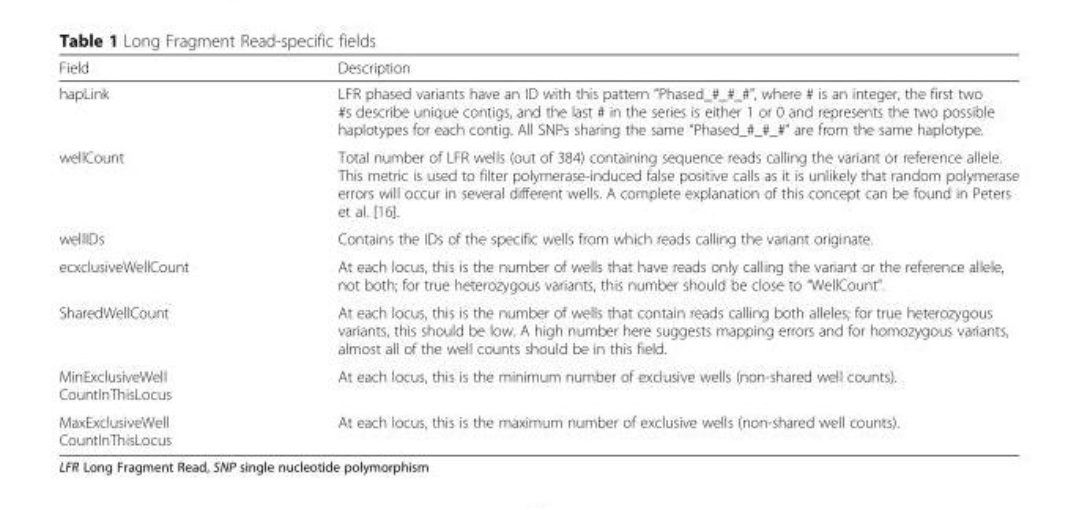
<table><thead><tr><td>Field</td><td>Description</td></tr></thead><tbody><tr><td>hapLink</td><td>LFR phased variants have an ID with this pattern “Phased_#_#_#”, where # is an integer, the first two #s describe unique contigs, and the last # in the series is either 1 or 0 and represents the two possible haplotypes for each contig. All SNPs sharing the same “Phased_#_#_#” are from the same haplotype.</td></tr><tr><td>wellCount</td><td>Total number of LFR wells (out of 384) containing sequence reads calling the variant or reference allele. This metric is used to filter polymerase-induced false positive calls as it is unlikely that random polymerase errors will occur in several different wells. A complete explanation of this concept can be found in Peters et al. [16].</td></tr><tr><td>wellIDs</td><td>Contains the IDs of the specific wells from which reads calling the variant originate.</td></tr><tr><td>ecxclusiveWellCount</td><td>At each locus, this is the number of wells that have reads only calling the variant or the reference allele, not both; for true heterozygous variants, this number should be close to “WellCount”.</td></tr><tr><td>SharedWellCount</td><td>At each locus, this is the number of wells that contain reads calling both alleles; for true heterozygous variants, this should be low. A high number here suggests mapping errors and for homozygous variants, almost all of the well counts should be in this field.</td></tr><tr><td>MinExclusiveWell CountInThisLocus</td><td>At each locus, this is the minimum number of exclusive wells (non-shared well counts).</td></tr><tr><td>MaxExclusiveWell CountInThisLocus</td><td>At each locus, this is the maximum number of exclusive wells (non-shared well counts).</td></tr></tbody></table>